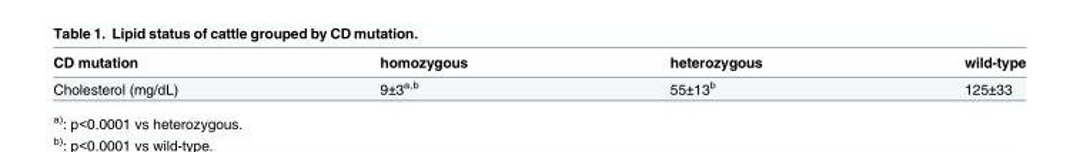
<table><thead><tr><td>CD mutation</td><td>homozygous</td><td>heterozygous</td><td>wild-type</td></tr></thead><tbody><tr><td>Cholesterol (mg/dL)</td><td>9±3<sup>a,b</sup></td><td>55±13<sup>b</sup></td><td>125±33</td></tr></tbody></table>